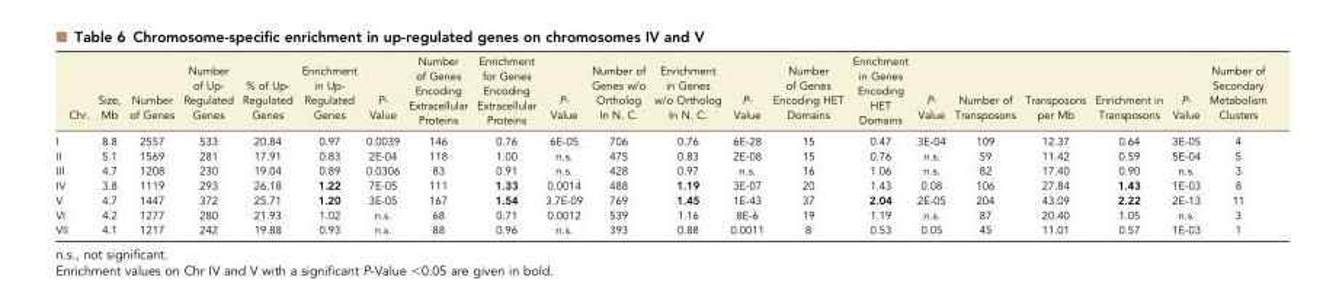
<table><thead><tr><td>Chr.</td><td>Size, Mb</td><td>Number of Genes</td><td>Number of Up- Regulated Genes</td><td>% of Up- Regulated Genes</td><td>Enrichment in Up- Regulated Genes</td><td>P- Value</td><td>Number of Genes Encoding Extracellular Proteins</td><td>Enrichment for Genes Encoding Extracellular Proteins</td><td>P- Value</td><td>Number of Genes w/o Ortholog In N. C.</td><td>Enrichment in Genes w/o Ortholog In N. C.</td><td>P- Value</td><td>Number of Genes Encoding HET Domains</td><td>Enrichment in Genes Encoding HET Domains</td><td>P- Value</td><td>Number of Transposons</td><td>Transposons per Mb</td><td>Enrichment in Transposons</td><td>P- Value</td><td>Number of Secondary Metabolism Clusters</td></tr></thead><tbody><tr><td>I</td><td>8.8</td><td>2557</td><td>533</td><td>20.84</td><td>0.97</td><td>0.0039</td><td>146</td><td>0.76</td><td>6E-05</td><td>706</td><td>0.76</td><td>6E-28</td><td>15</td><td>0.47</td><td>3E-04</td><td>109</td><td>12.37</td><td>0.64</td><td>3E-05</td><td>4</td></tr><tr><td>II</td><td>5.1</td><td>1569</td><td>281</td><td>17.91</td><td>0.83</td><td>2E-04</td><td>118</td><td>1.00</td><td>n.s.</td><td>475</td><td>0.83</td><td>2E-08</td><td>15</td><td>0.76</td><td>n.s.</td><td>59</td><td>11.42</td><td>0.59</td><td>5E-04</td><td>5</td></tr><tr><td>III</td><td>4.7</td><td>1208</td><td>230</td><td>19.04</td><td>0.89</td><td>0.0306</td><td>83</td><td>0.91</td><td>n.s.</td><td>428</td><td>0.97</td><td>n.s.</td><td>16</td><td>1.06</td><td>n.s.</td><td>82</td><td>17.40</td><td>0.90</td><td>n.s.</td><td>3</td></tr><tr><td>IV</td><td>3.8</td><td>1119</td><td>293</td><td>26.18</td><td>1.22</td><td>7E-05</td><td>111</td><td>1.33</td><td>0.0014</td><td>488</td><td>1.19</td><td>3E-07</td><td>20</td><td>1.43</td><td>0.08</td><td>106</td><td>27.84</td><td>1.43</td><td>1E-03</td><td>8</td></tr><tr><td>V</td><td>4.7</td><td>1447</td><td>372</td><td>25.71</td><td>1.20</td><td>3E-05</td><td>167</td><td>1.54</td><td>3.7E-09</td><td>769</td><td>1.45</td><td>1E-43</td><td>37</td><td>2.04</td><td>2E-05</td><td>204</td><td>43.09</td><td>2.22</td><td>2E-13</td><td>11</td></tr><tr><td>VI</td><td>4.2</td><td>1277</td><td>280</td><td>21.93</td><td>1.02</td><td>n.s.</td><td>68</td><td>0.71</td><td>0.0012</td><td>539</td><td>1.16</td><td>8E-6</td><td>19</td><td>1.19</td><td>n.s.</td><td>87</td><td>20.40</td><td>1.05</td><td>n.s.</td><td>3</td></tr><tr><td>VII</td><td>4.1</td><td>1217</td><td>242</td><td>19.88</td><td>0.93</td><td>n.s.</td><td>88</td><td>0.96</td><td>n.s.</td><td>393</td><td>0.88</td><td>0.0011</td><td>8</td><td>0.53</td><td>0.05</td><td>45</td><td>11.01</td><td>0.57</td><td>1E-03</td><td>1</td></tr></tbody></table>